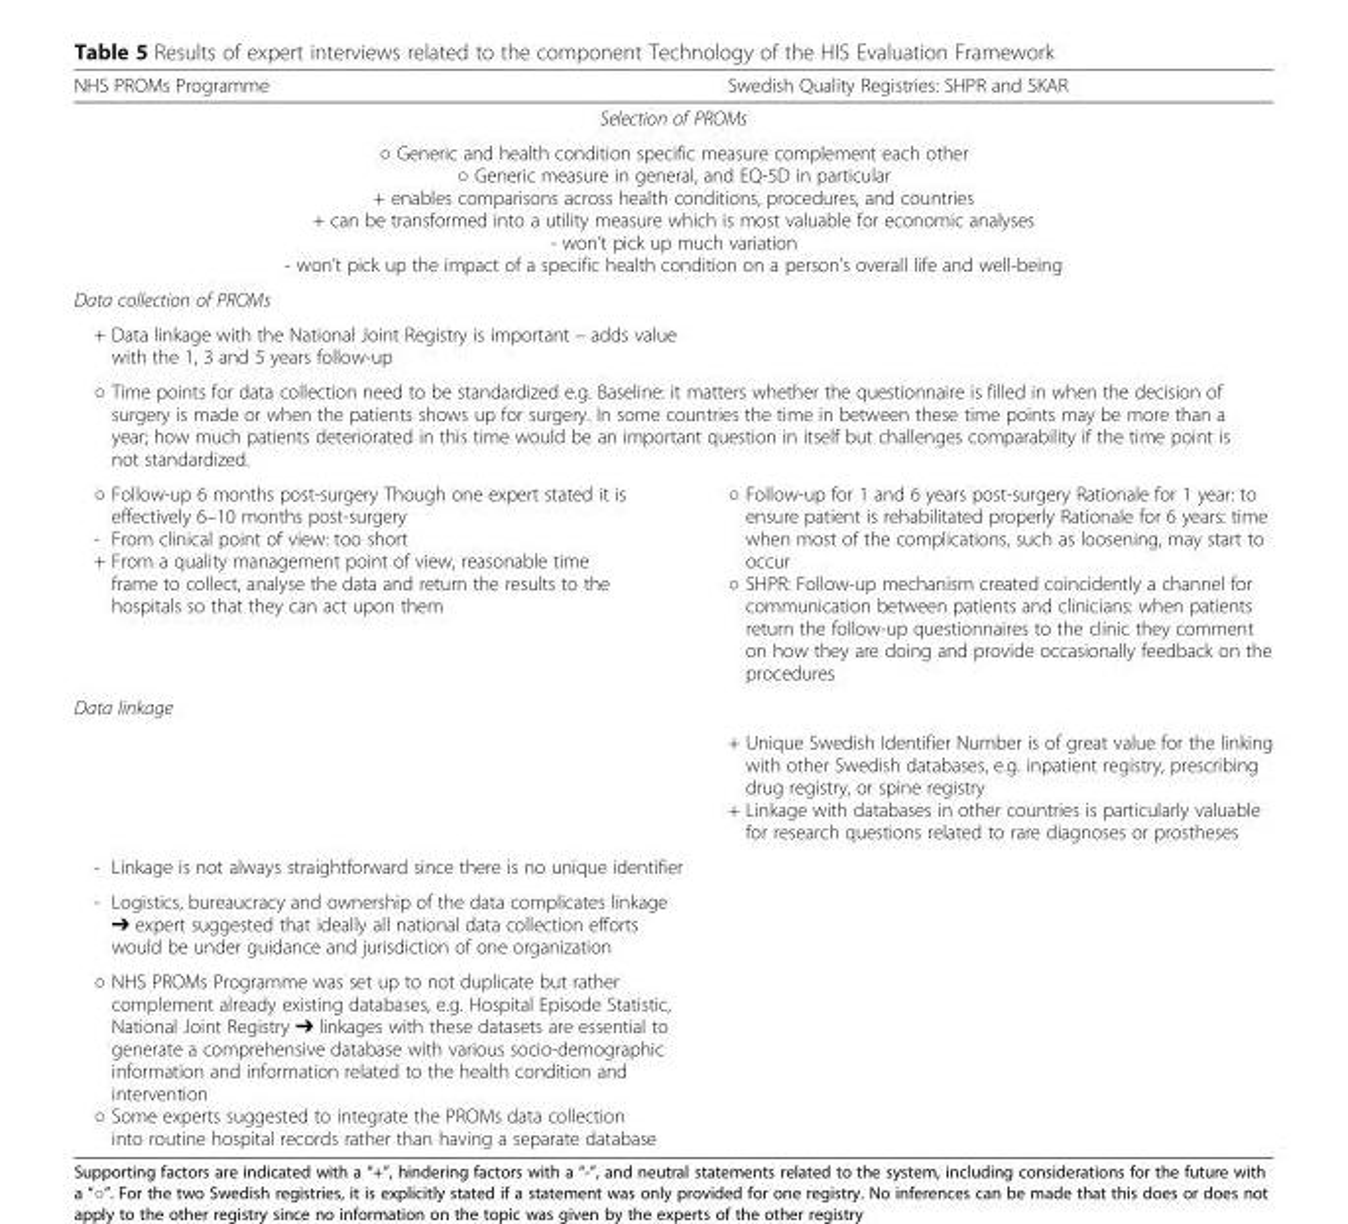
<table><thead><tr><td>NHS PROMs Programme</td><td>Swedish Quality Registries: SHPR and SKAR</td></tr></thead><tbody><tr><td colspan="2">Selection of PROMs</td></tr><tr><td colspan="2">○ Generic and health condition specific measure complement each other ○ Generic measure in general, and EQ-5D in particular + enables comparisons across health conditions, procedures, and countries + can be transformed into a utility measure which is most valuable for economic analyses - won’t pick up much variation - won’t pick up the impact of a specific health condition on a person’s overall life and well-being</td></tr><tr><td colspan="2">Data collection of PROMs</td></tr><tr><td colspan="2">+ Data linkage with the National Joint Registry is important – adds value with the 1, 3 and 5 years follow-up</td></tr><tr><td colspan="2">○ Time points for data collection need to be standardized e.g. Baseline: it matters whether the questionnaire is filled in when the decision of surgery is made or when the patients shows up for surgery. In some countries the time in between these time points may be more than a year; how much patients deteriorated in this time would be an important question in itself but challenges comparability if the time point is not standardized.</td></tr><tr><td>○ Follow-up 6 months post-surgery Though one expert stated it is effectively 6–10 months post-surgery - From clinical point of view: too short + From a quality management point of view, reasonable time frame to collect, analyse the data and return the results to the hospitals so that they can act upon them</td><td>○ Follow-up for 1 and 6 years post-surgery Rationale for 1 year: to ensure patient is rehabilitated properly Rationale for 6 years: time when most of the complications, such as loosening, may start to occur ○ SHPR: Follow-up mechanism created coincidently a channel for communication between patients and clinicians: when patients return the follow-up questionnaires to the clinic they comment on how they are doing and provide occasionally feedback on the procedures</td></tr><tr><td colspan="2">Data linkage</td></tr><tr><td></td><td>+ Unique Swedish Identifier Number is of great value for the linking with other Swedish databases, e.g. inpatient registry, prescribing drug registry, or spine registry + Linkage with databases in other countries is particularly valuable for research questions related to rare diagnoses or prostheses</td></tr><tr><td>- Linkage is not always straightforward since there is no unique identifier</td><td rowspan="3"></td></tr><tr><td>- Logistics, bureaucracy and ownership of the data complicates linkage ➔ expert suggested that ideally all national data collection efforts would be under guidance and jurisdiction of one organization</td></tr><tr><td>○ NHS PROMs Programme was set up to not duplicate but rather complement already existing databases, e.g. Hospital Episode Statistic, National Joint Registry ➔ linkages with these datasets are essential to generate a comprehensive database with various socio-demographic information and information related to the health condition and intervention ○ Some experts suggested to integrate the PROMs data collection into routine hospital records rather than having a separate database</td></tr></tbody></table>